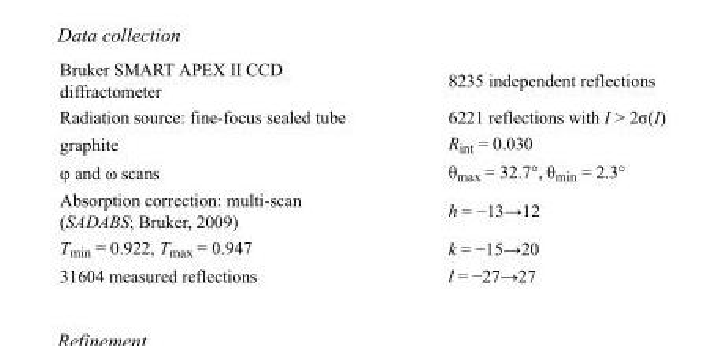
<table><tbody><tr><td>Bruker SMART APEX II CCD diffractometer</td><td>8235 independent reflections</td></tr><tr><td>Radiation source: fine-focus sealed tube</td><td>6221 reflections with I &gt; 2σ(I)</td></tr><tr><td>graphite</td><td>R<sub>int</sub> = 0.030</td></tr><tr><td>φ and ω scans</td><td>θ<sub>max</sub> = 32.7°, θ<sub>min</sub> = 2.3°</td></tr><tr><td>Absorption correction: multi-scan (SADABS; Bruker, 2009)</td><td>h = −13→12</td></tr><tr><td>T<sub>min</sub> = 0.922, T<sub>max</sub> = 0.947</td><td>k = −15→20</td></tr><tr><td>31604 measured reflections</td><td>l = −27→27</td></tr></tbody></table>